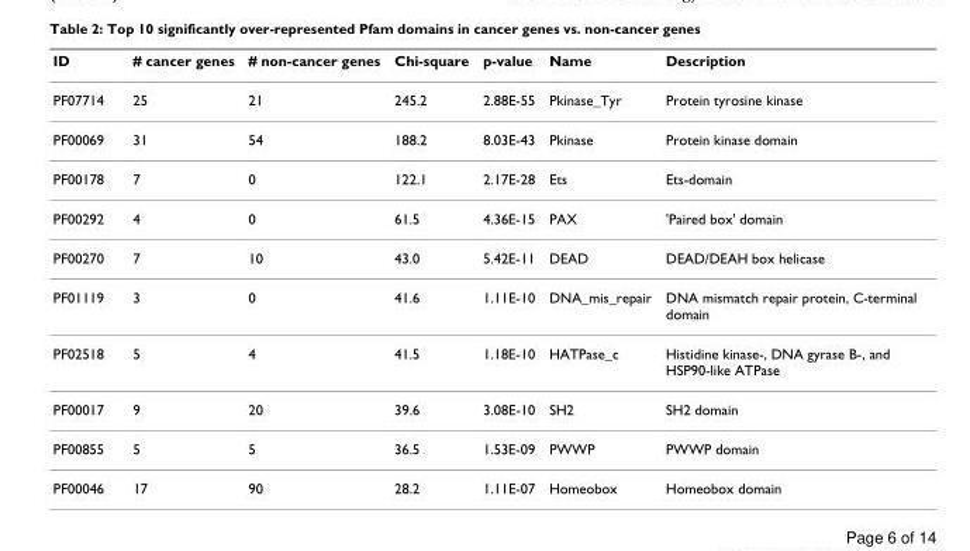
<table><thead><tr><td>ID</td><td># cancer genes</td><td># non-cancer genes</td><td>Chi-square</td><td>p-value</td><td>Name</td><td>Description</td></tr></thead><tbody><tr><td>PF07714</td><td>25</td><td>21</td><td>245.2</td><td>2.88E-55</td><td>Pkinase_Tyr</td><td>Protein tyrosine kinase</td></tr><tr><td>PF00069</td><td>31</td><td>54</td><td>188.2</td><td>8.03E-43</td><td>Pkinase</td><td>Protein kinase domain</td></tr><tr><td>PF00178</td><td>7</td><td>0</td><td>122.1</td><td>2.17E-28</td><td>Ets</td><td>Ets-domain</td></tr><tr><td>PF00292</td><td>4</td><td>0</td><td>61.5</td><td>4.36E-15</td><td>PAX</td><td>&#x27;Paired box&#x27; domain</td></tr><tr><td>PF00270</td><td>7</td><td>10</td><td>43.0</td><td>5.42E-11</td><td>DEAD</td><td>DEAD/DEAH box helicase</td></tr><tr><td>PF01119</td><td>3</td><td>0</td><td>41.6</td><td>1.11E-10</td><td>DNA_mis_repair</td><td>DNA mismatch repair protein, C-terminal domain</td></tr><tr><td>PF02518</td><td>5</td><td>4</td><td>41.5</td><td>1.18E-10</td><td>HATPase_c</td><td>Histidine kinase-, DNA gyrase B-, and HSP90-like ATPase</td></tr><tr><td>PF00017</td><td>9</td><td>20</td><td>39.6</td><td>3.08E-10</td><td>SH2</td><td>SH2 domain</td></tr><tr><td>PF00855</td><td>5</td><td>5</td><td>36.5</td><td>1.53E-09</td><td>PWWP</td><td>PWWP domain</td></tr><tr><td>PF00046</td><td>17</td><td>90</td><td>28.2</td><td>1.11E-07</td><td>Homeobox</td><td>Homeobox domain</td></tr></tbody></table>